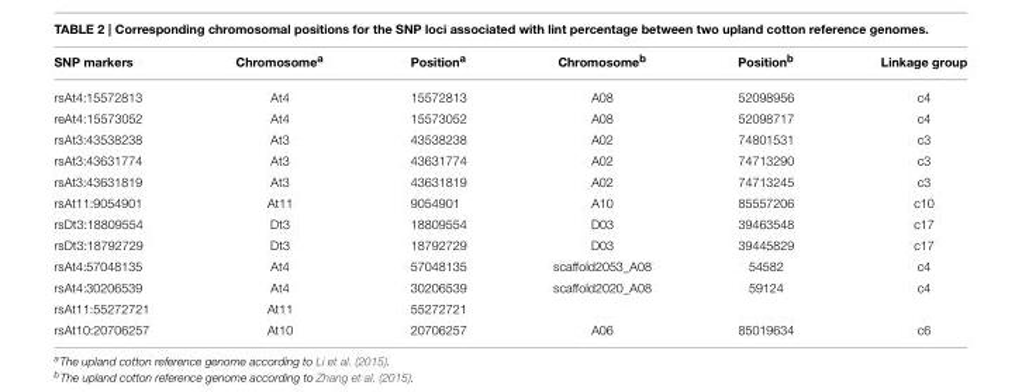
<table><thead><tr><td>SNP markers</td><td>Chromosome<sup>a</sup></td><td>Position<sup>a</sup></td><td>Chromosome<sup>b</sup></td><td>Position<sup>b</sup></td><td>Linkage group</td></tr></thead><tbody><tr><td>rsAt4:15572813</td><td>At4</td><td>15572813</td><td>A08</td><td>52098956</td><td>c4</td></tr><tr><td>reAt4:15573052</td><td>At4</td><td>15573052</td><td>A08</td><td>52098717</td><td>c4</td></tr><tr><td>rsAt3:43538238</td><td>At3</td><td>43538238</td><td>A02</td><td>74801531</td><td>c3</td></tr><tr><td>rsAt3:43631774</td><td>At3</td><td>43631774</td><td>A02</td><td>74713290</td><td>c3</td></tr><tr><td>rsAt3:43631819</td><td>At3</td><td>43631819</td><td>A02</td><td>74713245</td><td>c3</td></tr><tr><td>rsAt11:9054901</td><td>At11</td><td>9054901</td><td>A10</td><td>85557206</td><td>c10</td></tr><tr><td>rsDt3:18809554</td><td>Dt3</td><td>18809554</td><td>D03</td><td>39463548</td><td>c17</td></tr><tr><td>rsDt3:18792729</td><td>Dt3</td><td>18792729</td><td>D03</td><td>39445829</td><td>c17</td></tr><tr><td>rsAt4:57048135</td><td>At4</td><td>57048135</td><td>scaffold2053_A08</td><td>54582</td><td>c4</td></tr><tr><td>rsAt4:30206539</td><td>At4</td><td>30206539</td><td>scaffold2020_A08</td><td>59124</td><td>c4</td></tr><tr><td>rsAt11:55272721</td><td>At11</td><td>55272721</td><td></td><td></td><td></td></tr><tr><td>rsAt10:20706257</td><td>At10</td><td>20706257</td><td>A06</td><td>85019634</td><td>c6</td></tr></tbody></table>